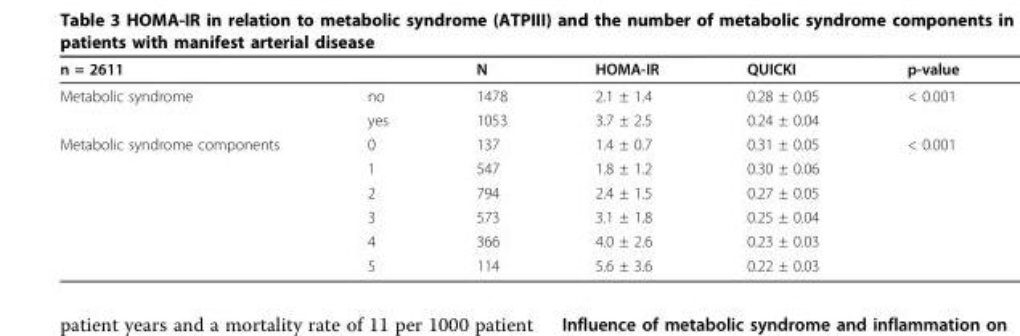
<table><thead><tr><td>n = 2611</td><td></td><td>N</td><td>HOMA-IR</td><td>QUICKI</td><td>p-value</td></tr></thead><tbody><tr><td rowspan="2">Metabolic syndrome</td><td>no</td><td>1478</td><td>2.1 ± 1.4</td><td>0.28 ± 0.05</td><td>&lt; 0.001</td></tr><tr><td>yes</td><td>1053</td><td>3.7 ± 2.5</td><td>0.24 ± 0.04</td><td></td></tr><tr><td rowspan="6">Metabolic syndrome components</td><td>0</td><td>137</td><td>1.4 ± 0.7</td><td>0.31 ± 0.05</td><td>&lt; 0.001</td></tr><tr><td>1</td><td>547</td><td>1.8 ± 1.2</td><td>0.30 ± 0.06</td><td></td></tr><tr><td>2</td><td>794</td><td>2.4 ± 1.5</td><td>0.27 ± 0.05</td><td></td></tr><tr><td>3</td><td>573</td><td>3.1 ± 1.8</td><td>0.25 ± 0.04</td><td></td></tr><tr><td>4</td><td>366</td><td>4.0 ± 2.6</td><td>0.23 ± 0.03</td><td></td></tr><tr><td>5</td><td>114</td><td>5.6 ± 3.6</td><td>0.22 ± 0.03</td><td></td></tr></tbody></table>